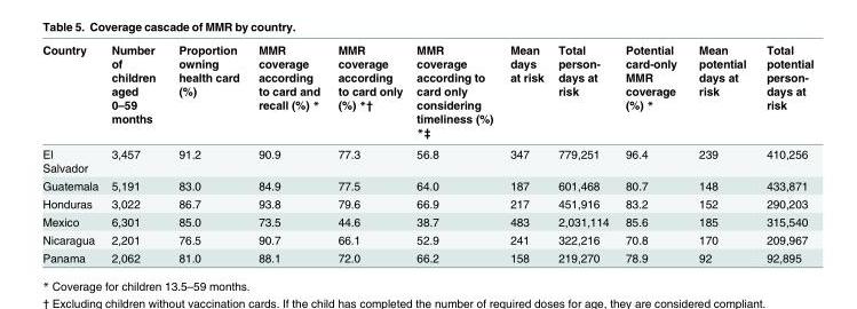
<table><thead><tr><td>Country</td><td>Number of children aged 0–59 months</td><td>Proportion owning health card (%)</td><td>MMR coverage according to card and recall (%) *</td><td>MMR coverage according to card only (%) *†</td><td>MMR coverage according to card only considering timeliness (%) *‡</td><td>Mean days at risk</td><td>Total person- days at risk</td><td>Potential card-only MMR coverage (%) *</td><td>Mean potential days at risk</td><td>Total potential person- days at risk</td></tr></thead><tbody><tr><td>El Salvador</td><td>3,457</td><td>91.2</td><td>90.9</td><td>77.3</td><td>56.8</td><td>347</td><td>779,251</td><td>96.4</td><td>239</td><td>410,256</td></tr><tr><td>Guatemala</td><td>5,191</td><td>83.0</td><td>84.9</td><td>77.5</td><td>64.0</td><td>187</td><td>601,468</td><td>80.7</td><td>148</td><td>433,871</td></tr><tr><td>Honduras</td><td>3,022</td><td>86.7</td><td>93.8</td><td>79.6</td><td>66.9</td><td>217</td><td>451,916</td><td>83.2</td><td>152</td><td>290,203</td></tr><tr><td>Mexico</td><td>6,301</td><td>85.0</td><td>73.5</td><td>44.6</td><td>38.7</td><td>483</td><td>2,031,114</td><td>85.6</td><td>185</td><td>315,540</td></tr><tr><td>Nicaragua</td><td>2,201</td><td>76.5</td><td>90.7</td><td>66.1</td><td>52.9</td><td>241</td><td>322,216</td><td>70.8</td><td>170</td><td>209,967</td></tr><tr><td>Panama</td><td>2,062</td><td>81.0</td><td>88.1</td><td>72.0</td><td>66.2</td><td>158</td><td>219,270</td><td>78.9</td><td>92</td><td>92,895</td></tr></tbody></table>